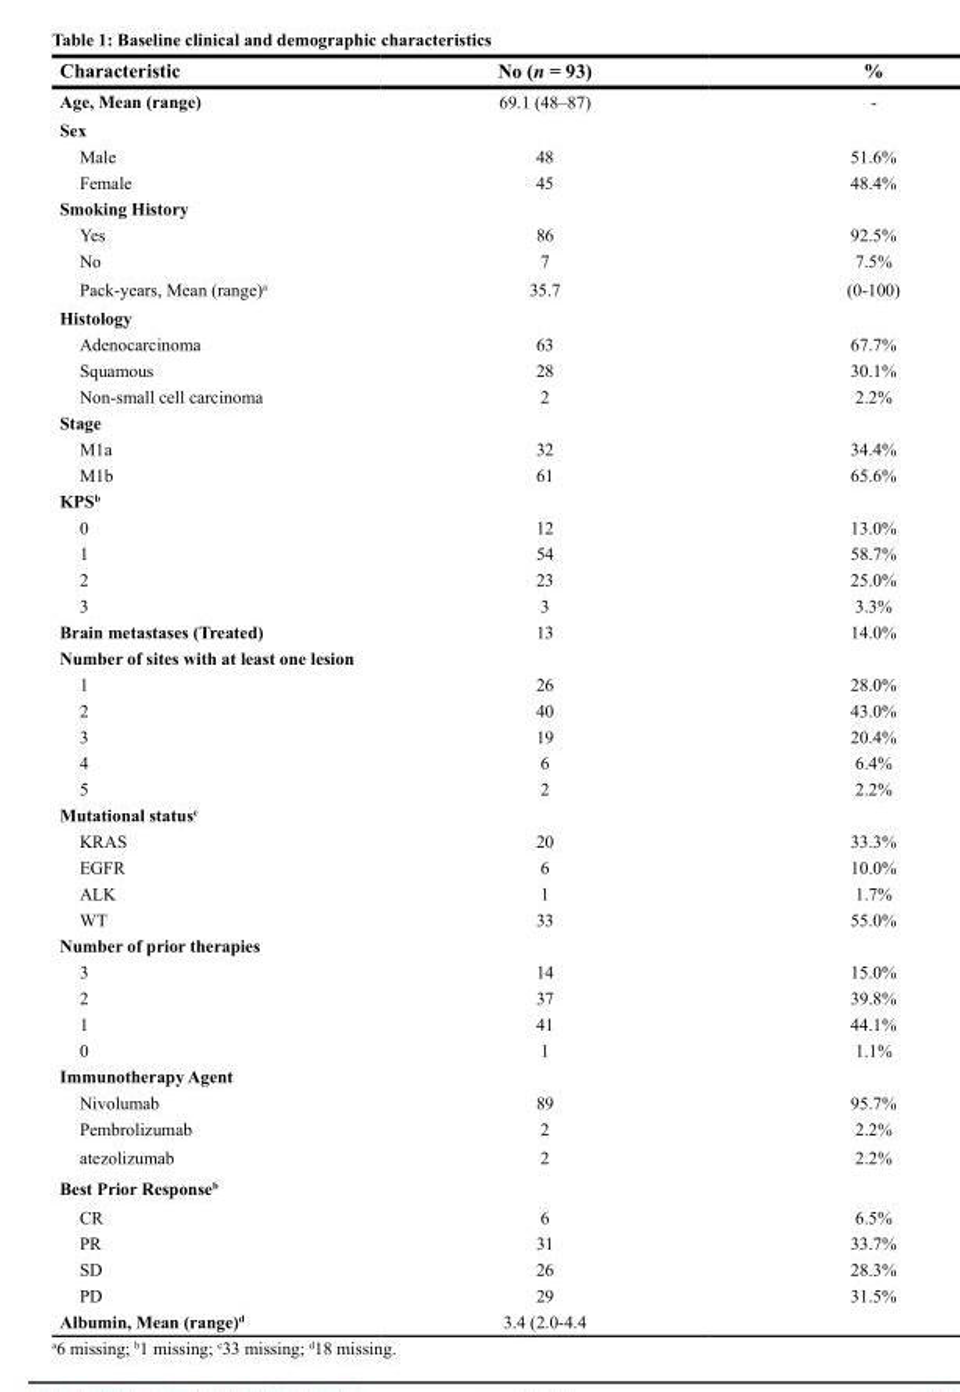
<table><thead><tr><td>Characteristic</td><td>No (n = 93)</td><td>%</td></tr></thead><tbody><tr><td>Age, Mean (range)</td><td>69.1 (48–87)</td><td>-</td></tr><tr><td colspan="3">Sex</td></tr><tr><td>Male</td><td>48</td><td>51.6%</td></tr><tr><td>Female</td><td>45</td><td>48.4%</td></tr><tr><td colspan="3">Smoking History</td></tr><tr><td>Yes</td><td>86</td><td>92.5%</td></tr><tr><td>No</td><td>7</td><td>7.5%</td></tr><tr><td>Pack-years, Mean (range)<sup>a</sup></td><td>35.7</td><td>(0-100)</td></tr><tr><td colspan="3">Histology</td></tr><tr><td>Adenocarcinoma</td><td>63</td><td>67.7%</td></tr><tr><td>Squamous</td><td>28</td><td>30.1%</td></tr><tr><td>Non-small cell carcinoma</td><td>2</td><td>2.2%</td></tr><tr><td colspan="3">Stage</td></tr><tr><td>M1a</td><td>32</td><td>34.4%</td></tr><tr><td>M1b</td><td>61</td><td>65.6%</td></tr><tr><td colspan="3">KPS<sup>b</sup></td></tr><tr><td>0</td><td>12</td><td>13.0%</td></tr><tr><td>1</td><td>54</td><td>58.7%</td></tr><tr><td>2</td><td>23</td><td>25.0%</td></tr><tr><td>3</td><td>3</td><td>3.3%</td></tr><tr><td>Brain metastases (Treated)</td><td>13</td><td>14.0%</td></tr><tr><td colspan="3">Number of sites with at least one lesion</td></tr><tr><td>1</td><td>26</td><td>28.0%</td></tr><tr><td>2</td><td>40</td><td>43.0%</td></tr><tr><td>3</td><td>19</td><td>20.4%</td></tr><tr><td>4</td><td>6</td><td>6.4%</td></tr><tr><td>5</td><td>2</td><td>2.2%</td></tr><tr><td colspan="3">Mutational status<sup>c</sup></td></tr><tr><td>KRAS</td><td>20</td><td>33.3%</td></tr><tr><td>EGFR</td><td>6</td><td>10.0%</td></tr><tr><td>ALK</td><td>1</td><td>1.7%</td></tr><tr><td>WT</td><td>33</td><td>55.0%</td></tr><tr><td colspan="3">Number of prior therapies</td></tr><tr><td>3</td><td>14</td><td>15.0%</td></tr><tr><td>2</td><td>37</td><td>39.8%</td></tr><tr><td>1</td><td>41</td><td>44.1%</td></tr><tr><td>0</td><td>1</td><td>1.1%</td></tr><tr><td colspan="3">Immunotherapy Agent</td></tr><tr><td>Nivolumab</td><td>89</td><td>95.7%</td></tr><tr><td>Pembrolizumab</td><td>2</td><td>2.2%</td></tr><tr><td>atezolizumab</td><td>2</td><td>2.2%</td></tr><tr><td colspan="3">Best Prior Response<sup>b</sup></td></tr><tr><td>CR</td><td>6</td><td>6.5%</td></tr><tr><td>PR</td><td>31</td><td>33.7%</td></tr><tr><td>SD</td><td>26</td><td>28.3%</td></tr><tr><td>PD</td><td>29</td><td>31.5%</td></tr><tr><td>Albumin, Mean (range)<sup>d</sup></td><td>3.4 (2.0-4.4</td><td></td></tr></tbody></table>